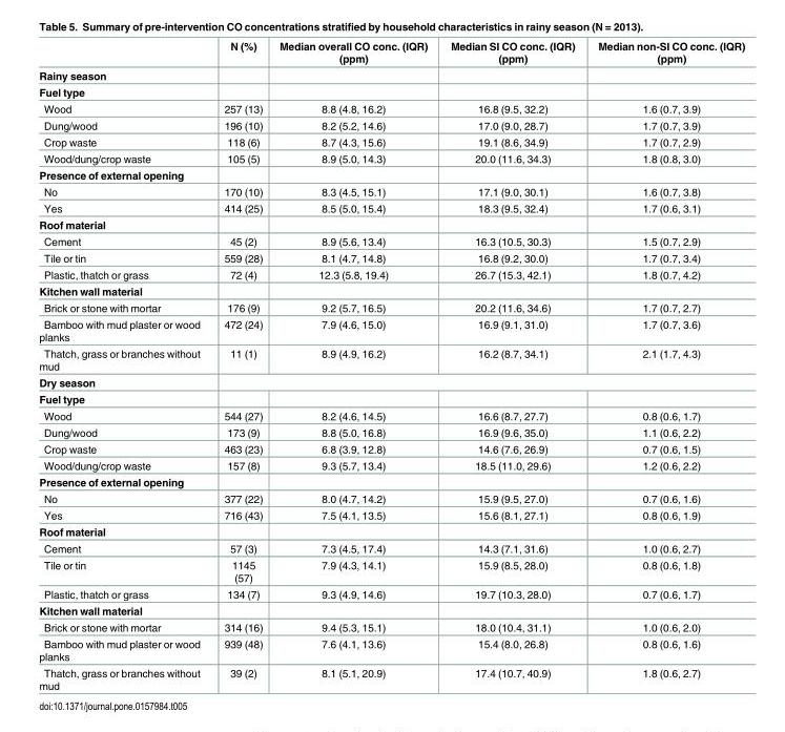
<table><thead><tr><td></td><td>N (%)</td><td>Median overall CO conc. (IQR) (ppm)</td><td>Median SI CO conc. (IQR) (ppm)</td><td>Median non-SI CO conc. (IQR) (ppm)</td></tr></thead><tbody><tr><td colspan="5">Rainy season</td></tr><tr><td colspan="5">Fuel type</td></tr><tr><td>Wood</td><td>257 (13)</td><td>8.8 (4.8, 16.2)</td><td>16.8 (9.5, 32.2)</td><td>1.6 (0.7, 3.9)</td></tr><tr><td>Dung/wood</td><td>196 (10)</td><td>8.2 (5.2, 14.6)</td><td>17.0 (9.0, 28.7)</td><td>1.7 (0.7, 3.9)</td></tr><tr><td>Crop waste</td><td>118 (6)</td><td>8.7 (4.3, 15.6)</td><td>19.1 (8.6, 34.9)</td><td>1.7 (0.7, 2.9)</td></tr><tr><td>Wood/dung/crop waste</td><td>105 (5)</td><td>8.9 (5.0, 14.3)</td><td>20.0 (11.6, 34.3)</td><td>1.8 (0.8, 3.0)</td></tr><tr><td colspan="5">Presence of external opening</td></tr><tr><td>No</td><td>170 (10)</td><td>8.3 (4.5, 15.1)</td><td>17.1 (9.0, 30.1)</td><td>1.6 (0.7, 3.8)</td></tr><tr><td>Yes</td><td>414 (25)</td><td>8.5 (5.0, 15.4)</td><td>18.3 (9.5, 32.4)</td><td>1.7 (0.6, 3.1)</td></tr><tr><td colspan="5">Roof material</td></tr><tr><td>Cement</td><td>45 (2)</td><td>8.9 (5.6, 13.4)</td><td>16.3 (10.5, 30.3)</td><td>1.5 (0.7, 2.9)</td></tr><tr><td>Tile or tin</td><td>559 (28)</td><td>8.1 (4.7, 14.8)</td><td>16.8 (9.2, 30.0)</td><td>1.7 (0.7, 3.4)</td></tr><tr><td>Plastic, thatch or grass</td><td>72 (4)</td><td>12.3 (5.8, 19.4)</td><td>26.7 (15.3, 42.1)</td><td>1.8 (0.7, 4.2)</td></tr><tr><td colspan="5">Kitchen wall material</td></tr><tr><td>Brick or stone with mortar</td><td>176 (9)</td><td>9.2 (5.7, 16.5)</td><td>20.2 (11.6, 34.6)</td><td>1.7 (0.7, 2.7)</td></tr><tr><td>Bamboo with mud plaster or wood planks</td><td>472 (24)</td><td>7.9 (4.6, 15.0)</td><td>16.9 (9.1, 31.0)</td><td>1.7 (0.7, 3.6)</td></tr><tr><td>Thatch, grass or branches without mud</td><td>11 (1)</td><td>8.9 (4.9, 16.2)</td><td>16.2 (8.7, 34.1)</td><td>2.1 (1.7, 4.3)</td></tr><tr><td colspan="5">Dry season</td></tr><tr><td colspan="5">Fuel type</td></tr><tr><td>Wood</td><td>544 (27)</td><td>8.2 (4.6, 14.5)</td><td>16.6 (8.7, 27.7)</td><td>0.8 (0.6, 1.7)</td></tr><tr><td>Dung/wood</td><td>173 (9)</td><td>8.8 (5.0, 16.8)</td><td>16.9 (9.6, 35.0)</td><td>1.1 (0.6, 2.2)</td></tr><tr><td>Crop waste</td><td>463 (23)</td><td>6.8 (3.9, 12.8)</td><td>14.6 (7.6, 26.9)</td><td>0.7 (0.6, 1.5)</td></tr><tr><td>Wood/dung/crop waste</td><td>157 (8)</td><td>9.3 (5.7, 13.4)</td><td>18.5 (11.0, 29.6)</td><td>1.2 (0.6, 2.2)</td></tr><tr><td colspan="5">Presence of external opening</td></tr><tr><td>No</td><td>377 (22)</td><td>8.0 (4.7, 14.2)</td><td>15.9 (9.5, 27.0)</td><td>0.7 (0.6, 1.6)</td></tr><tr><td>Yes</td><td>716 (43)</td><td>7.5 (4.1, 13.5)</td><td>15.6 (8.1, 27.1)</td><td>0.8 (0.6, 1.9)</td></tr><tr><td colspan="5">Roof material</td></tr><tr><td>Cement</td><td>57 (3)</td><td>7.3 (4.5, 17.4)</td><td>14.3 (7.1, 31.6)</td><td>1.0 (0.6, 2.7)</td></tr><tr><td>Tile or tin</td><td>1145 (57)</td><td>7.9 (4.3, 14.1)</td><td>15.9 (8.5, 28.0)</td><td>0.8 (0.6, 1.8)</td></tr><tr><td>Plastic, thatch or grass</td><td>134 (7)</td><td>9.3 (4.9, 14.6)</td><td>19.7 (10.3, 28.0)</td><td>0.7 (0.6, 1.7)</td></tr><tr><td colspan="5">Kitchen wall material</td></tr><tr><td>Brick or stone with mortar</td><td>314 (16)</td><td>9.4 (5.3, 15.1)</td><td>18.0 (10.4, 31.1)</td><td>1.0 (0.6, 2.0)</td></tr><tr><td>Bamboo with mud plaster or wood planks</td><td>939 (48)</td><td>7.6 (4.1, 13.6)</td><td>15.4 (8.0, 26.8)</td><td>0.8 (0.6, 1.6)</td></tr><tr><td>Thatch, grass or branches without mud</td><td>39 (2)</td><td>8.1 (5.1, 20.9)</td><td>17.4 (10.7, 40.9)</td><td>1.8 (0.6, 2.7)</td></tr></tbody></table>